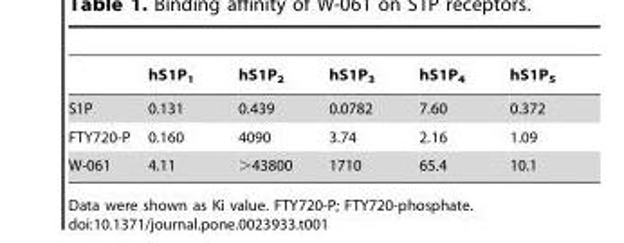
<table><thead><tr><td></td><td>hS1P<sub>1</sub></td><td>hS1P<sub>2</sub></td><td>hS1P<sub>3</sub></td><td>hS1P<sub>4</sub></td><td>hS1P<sub>5</sub></td></tr></thead><tbody><tr><td>S1P</td><td>0.131</td><td>0.439</td><td>0.0782</td><td>7.60</td><td>0.372</td></tr><tr><td>FTY720-P</td><td>0.160</td><td>4090</td><td>3.74</td><td>2.16</td><td>1.09</td></tr><tr><td>W-061</td><td>4.11</td><td>&gt;43800</td><td>1710</td><td>65.4</td><td>10.1</td></tr></tbody></table>